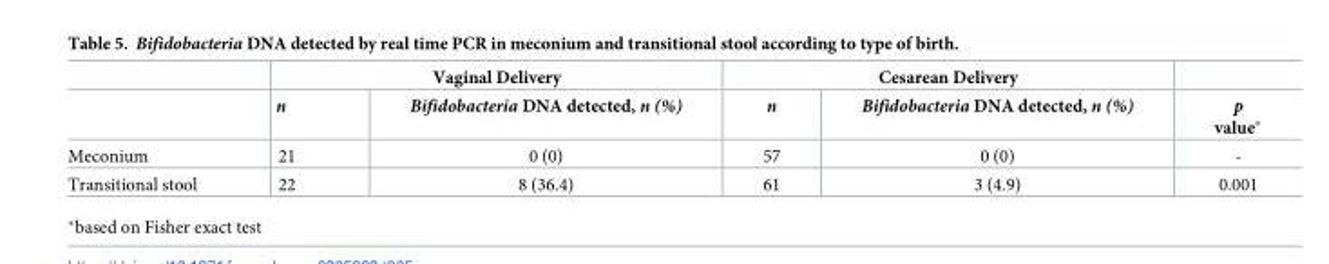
<table><thead><tr><td rowspan="2"></td><td colspan="2">Vaginal Delivery</td><td colspan="2">Cesarean Delivery</td><td rowspan="2">p value*</td></tr><tr><td>n</td><td>Bifidobacteria DNA detected, n (%)</td><td>n</td><td>Bifidobacteria DNA detected, n (%)</td></tr></thead><tbody><tr><td>Meconium</td><td>21</td><td>0 (0)</td><td>57</td><td>0 (0)</td><td>-</td></tr><tr><td>Transitional stool</td><td>22</td><td>8 (36.4)</td><td>61</td><td>3 (4.9)</td><td>0.001</td></tr></tbody></table>